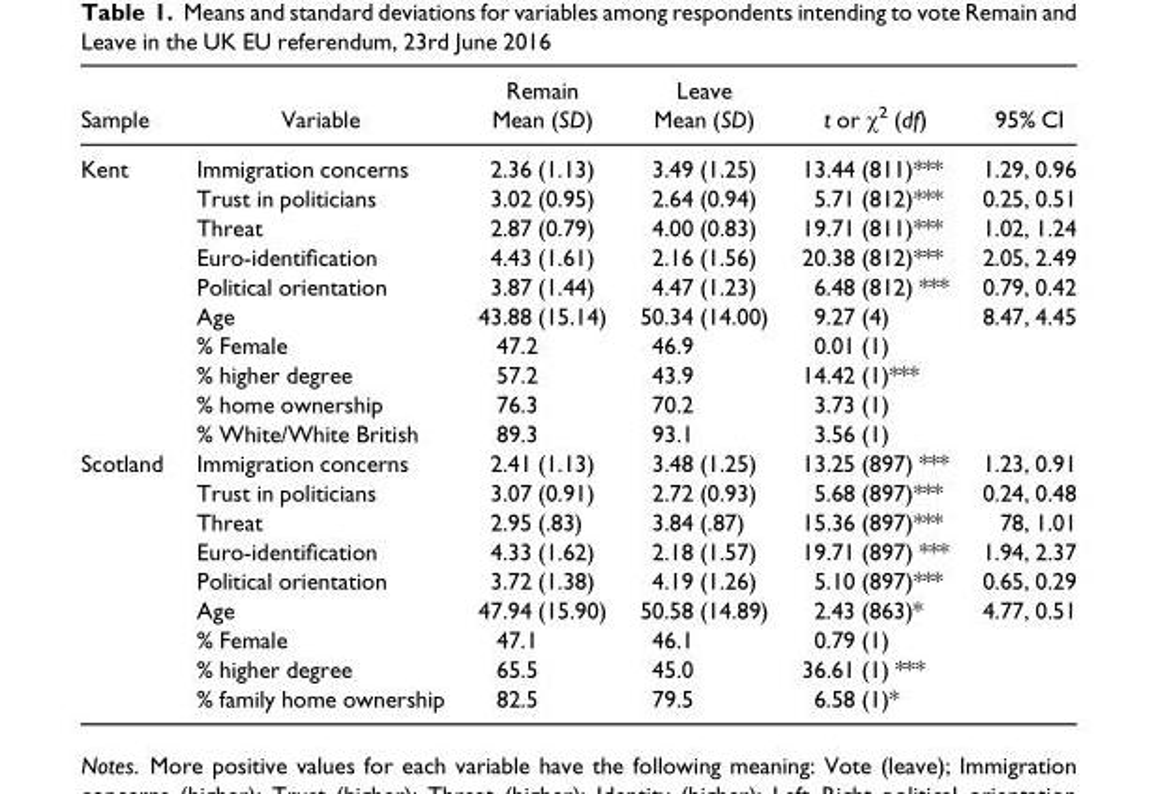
<table><thead><tr><td>Sample</td><td>Variable</td><td>Remain Mean (SD)</td><td>Leave Mean (SD)</td><td>t or χ<sup>2</sup> (df)</td><td>95% CI</td></tr></thead><tbody><tr><td rowspan="10">Kent</td><td>Immigration concerns</td><td>2.36 (1.13)</td><td>3.49 (1.25)</td><td>13.44 (811)***</td><td>1.29, 0.96</td></tr><tr><td>Trust in politicians</td><td>3.02 (0.95)</td><td>2.64 (0.94)</td><td>5.71 (812)***</td><td>0.25, 0.51</td></tr><tr><td>Threat</td><td>2.87 (0.79)</td><td>4.00 (0.83)</td><td>19.71 (811)***</td><td>1.02, 1.24</td></tr><tr><td>Euro-identification</td><td>4.43 (1.61)</td><td>2.16 (1.56)</td><td>20.38 (812)***</td><td>2.05, 2.49</td></tr><tr><td>Political orientation</td><td>3.87 (1.44)</td><td>4.47 (1.23)</td><td>6.48 (812) ***</td><td>0.79, 0.42</td></tr><tr><td>Age</td><td>43.88 (15.14)</td><td>50.34 (14.00)</td><td>9.27 (4)</td><td>8.47, 4.45</td></tr><tr><td>% Female</td><td>47.2</td><td>46.9</td><td>0.01 (1)</td><td></td></tr><tr><td>% higher degree</td><td>57.2</td><td>43.9</td><td>14.42 (1)***</td><td></td></tr><tr><td>% home ownership</td><td>76.3</td><td>70.2</td><td>3.73 (1)</td><td></td></tr><tr><td>% White/White British</td><td>89.3</td><td>93.1</td><td>3.56 (1)</td><td></td></tr><tr><td rowspan="9">Scotland</td><td>Immigration concerns</td><td>2.41 (1.13)</td><td>3.48 (1.25)</td><td>13.25 (897) ***</td><td>1.23, 0.91</td></tr><tr><td>Trust in politicians</td><td>3.07 (0.91)</td><td>2.72 (0.93)</td><td>5.68 (897)***</td><td>0.24, 0.48</td></tr><tr><td>Threat</td><td>2.95 (.83)</td><td>3.84 (.87)</td><td>15.36 (897)***</td><td>78, 1.01</td></tr><tr><td>Euro-identification</td><td>4.33 (1.62)</td><td>2.18 (1.57)</td><td>19.71 (897) ***</td><td>1.94, 2.37</td></tr><tr><td>Political orientation</td><td>3.72 (1.38)</td><td>4.19 (1.26)</td><td>5.10 (897)***</td><td>0.65, 0.29</td></tr><tr><td>Age</td><td>47.94 (15.90)</td><td>50.58 (14.89)</td><td>2.43 (863)*</td><td>4.77, 0.51</td></tr><tr><td>% Female</td><td>47.1</td><td>46.1</td><td>0.79 (1)</td><td></td></tr><tr><td>% higher degree</td><td>65.5</td><td>45.0</td><td>36.61 (1) ***</td><td></td></tr><tr><td>% family home ownership</td><td>82.5</td><td>79.5</td><td>6.58 (1)*</td><td></td></tr></tbody></table>